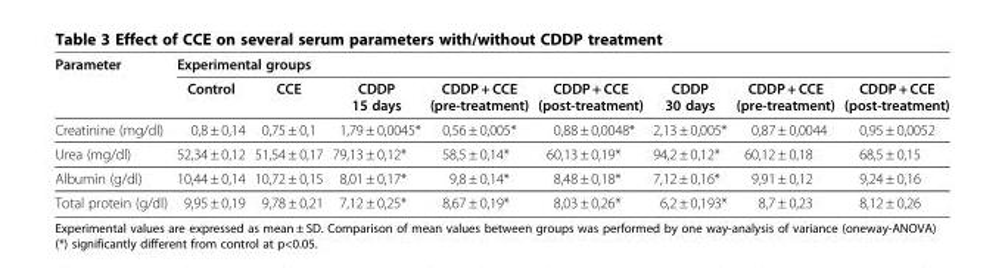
<table><thead><tr><td rowspan="2">Parameter</td><td colspan="8">Experimental groups</td></tr><tr><td>Control</td><td>CCE</td><td>CDDP 15 days</td><td>CDDP + CCE (pre-treatment)</td><td>CDDP + CCE (post-treatment)</td><td>CDDP 30 days</td><td>CDDP + CCE (pre-treatment)</td><td>CDDP + CCE (post-treatment)</td></tr></thead><tbody><tr><td>Creatinine (mg/dl)</td><td>0,8 ± 0,14</td><td>0,75 ± 0,1</td><td>1,79 ± 0,0045*</td><td>0,56 ± 0,005*</td><td>0,88 ± 0,0048*</td><td>2,13 ± 0,005*</td><td>0,87 ± 0,0044</td><td>0,95 ± 0,0052</td></tr><tr><td>Urea (mg/dl)</td><td>52,34 ± 0,12</td><td>51,54 ± 0,17</td><td>79,13 ± 0,12*</td><td>58,5 ± 0,14*</td><td>60,13 ± 0,19*</td><td>94,2 ± 0,12*</td><td>60,12 ± 0,18</td><td>68,5 ± 0,15</td></tr><tr><td>Albumin (g/dl)</td><td>10,44 ± 0,14</td><td>10,72 ± 0,15</td><td>8,01 ± 0,17*</td><td>9,8 ± 0,14*</td><td>8,48 ± 0,18*</td><td>7,12 ± 0,16*</td><td>9,91 ± 0,12</td><td>9,24 ± 0,16</td></tr><tr><td>Total protein (g/dl)</td><td>9,95 ± 0,19</td><td>9,78 ± 0,21</td><td>7,12 ± 0,25*</td><td>8,67 ± 0,19*</td><td>8,03 ± 0,26*</td><td>6,2 ± 0,193*</td><td>8,7 ± 0,23</td><td>8,12 ± 0,26</td></tr></tbody></table>